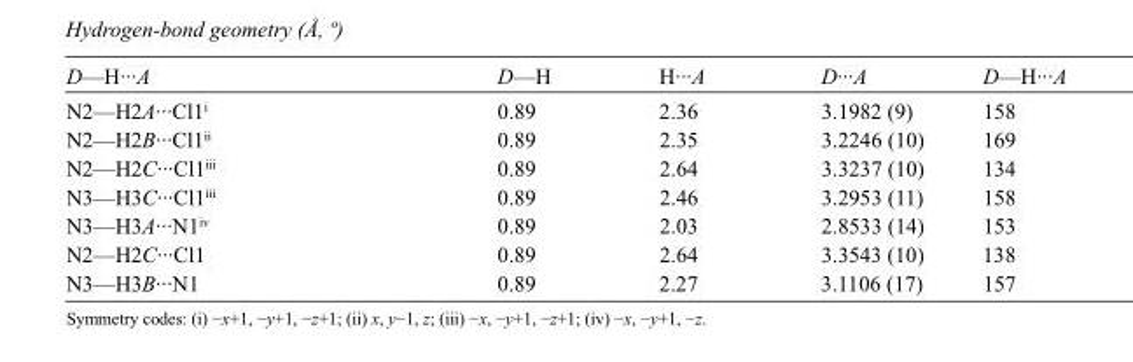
<table><tbody><tr><td>D—H···A</td><td>D—H</td><td>H···A</td><td>D···A</td><td>D—H···A</td></tr><tr><td>N2—H2A···Cl1<sup>i</sup></td><td>0.89</td><td>2.36</td><td>3.1982 (9)</td><td>158</td></tr><tr><td>N2—H2B···Cl1<sup>ii</sup></td><td>0.89</td><td>2.35</td><td>3.2246 (10)</td><td>169</td></tr><tr><td>N2—H2C···Cl1<sup>iii</sup></td><td>0.89</td><td>2.64</td><td>3.3237 (10)</td><td>134</td></tr><tr><td>N3—H3C···Cl1<sup>iii</sup></td><td>0.89</td><td>2.46</td><td>3.2953 (11)</td><td>158</td></tr><tr><td>N3—H3A···N1<sup>iv</sup></td><td>0.89</td><td>2.03</td><td>2.8533 (14)</td><td>153</td></tr><tr><td>N2—H2C···Cl1</td><td>0.89</td><td>2.64</td><td>3.3543 (10)</td><td>138</td></tr><tr><td>N3—H3B···N1</td><td>0.89</td><td>2.27</td><td>3.1106 (17)</td><td>157</td></tr></tbody></table>